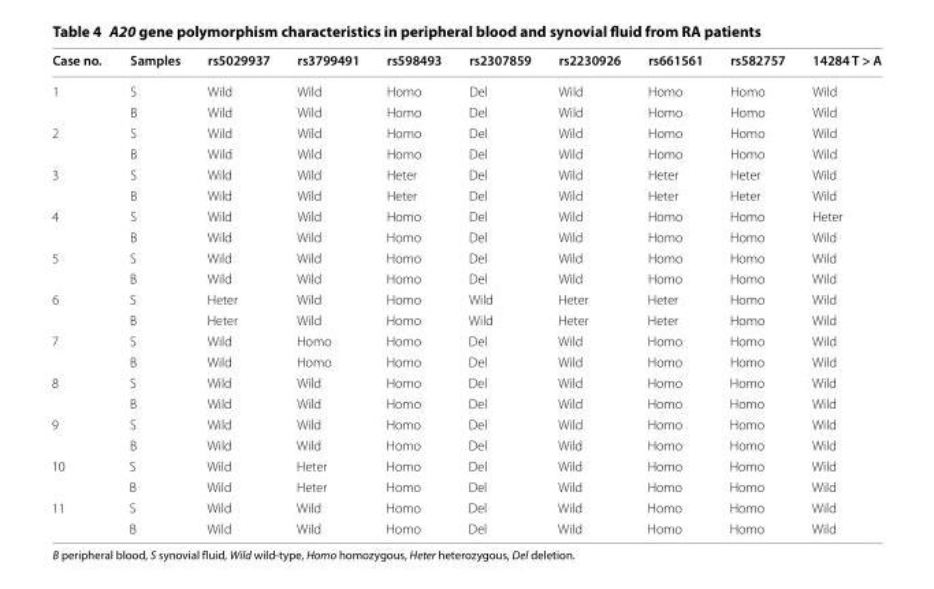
<table><thead><tr><td>Case no.</td><td>Samples</td><td>rs5029937</td><td>rs3799491</td><td>rs598493</td><td>rs2307859</td><td>rs2230926</td><td>rs661561</td><td>rs582757</td><td>14284 T &gt; A</td></tr></thead><tbody><tr><td rowspan="2">1</td><td>S</td><td>Wild</td><td>Wild</td><td>Homo</td><td>Del</td><td>Wild</td><td>Homo</td><td>Homo</td><td>Wild</td></tr><tr><td>B</td><td>Wild</td><td>Wild</td><td>Homo</td><td>Del</td><td>Wild</td><td>Homo</td><td>Homo</td><td>Wild</td></tr><tr><td rowspan="2">2</td><td>S</td><td>Wild</td><td>Wild</td><td>Homo</td><td>Del</td><td>Wild</td><td>Homo</td><td>Homo</td><td>Wild</td></tr><tr><td>B</td><td>Wild</td><td>Wild</td><td>Homo</td><td>Del</td><td>Wild</td><td>Homo</td><td>Homo</td><td>Wild</td></tr><tr><td rowspan="2">3</td><td>S</td><td>Wild</td><td>Wild</td><td>Heter</td><td>Del</td><td>Wild</td><td>Heter</td><td>Heter</td><td>Wild</td></tr><tr><td>B</td><td>Wild</td><td>Wild</td><td>Heter</td><td>Del</td><td>Wild</td><td>Heter</td><td>Heter</td><td>Wild</td></tr><tr><td rowspan="2">4</td><td>S</td><td>Wild</td><td>Wild</td><td>Homo</td><td>Del</td><td>Wild</td><td>Homo</td><td>Homo</td><td>Heter</td></tr><tr><td>B</td><td>Wild</td><td>Wild</td><td>Homo</td><td>Del</td><td>Wild</td><td>Homo</td><td>Homo</td><td>Wild</td></tr><tr><td rowspan="2">5</td><td>S</td><td>Wild</td><td>Wild</td><td>Homo</td><td>Del</td><td>Wild</td><td>Homo</td><td>Homo</td><td>Wild</td></tr><tr><td>B</td><td>Wild</td><td>Wild</td><td>Homo</td><td>Del</td><td>Wild</td><td>Homo</td><td>Homo</td><td>Wild</td></tr><tr><td rowspan="2">6</td><td>S</td><td>Heter</td><td>Wild</td><td>Homo</td><td>Wild</td><td>Heter</td><td>Heter</td><td>Homo</td><td>Wild</td></tr><tr><td>B</td><td>Heter</td><td>Wild</td><td>Homo</td><td>Wild</td><td>Heter</td><td>Heter</td><td>Homo</td><td>Wild</td></tr><tr><td rowspan="2">7</td><td>S</td><td>Wild</td><td>Homo</td><td>Homo</td><td>Del</td><td>Wild</td><td>Homo</td><td>Homo</td><td>Wild</td></tr><tr><td>B</td><td>Wild</td><td>Homo</td><td>Homo</td><td>Del</td><td>Wild</td><td>Homo</td><td>Homo</td><td>Wild</td></tr><tr><td rowspan="2">8</td><td>S</td><td>Wild</td><td>Wild</td><td>Homo</td><td>Del</td><td>Wild</td><td>Homo</td><td>Homo</td><td>Wild</td></tr><tr><td>B</td><td>Wild</td><td>Wild</td><td>Homo</td><td>Del</td><td>Wild</td><td>Homo</td><td>Homo</td><td>Wild</td></tr><tr><td rowspan="2">9</td><td>S</td><td>Wild</td><td>Wild</td><td>Homo</td><td>Del</td><td>Wild</td><td>Homo</td><td>Homo</td><td>Wild</td></tr><tr><td>B</td><td>Wild</td><td>Wild</td><td>Homo</td><td>Del</td><td>Wild</td><td>Homo</td><td>Homo</td><td>Wild</td></tr><tr><td rowspan="2">10</td><td>S</td><td>Wild</td><td>Heter</td><td>Homo</td><td>Del</td><td>Wild</td><td>Homo</td><td>Homo</td><td>Wild</td></tr><tr><td>B</td><td>Wild</td><td>Heter</td><td>Homo</td><td>Del</td><td>Wild</td><td>Homo</td><td>Homo</td><td>Wild</td></tr><tr><td rowspan="2">11</td><td>S</td><td>Wild</td><td>Wild</td><td>Homo</td><td>Del</td><td>Wild</td><td>Homo</td><td>Homo</td><td>Wild</td></tr><tr><td>B</td><td>Wild</td><td>Wild</td><td>Homo</td><td>Del</td><td>Wild</td><td>Homo</td><td>Homo</td><td>Wild</td></tr></tbody></table>